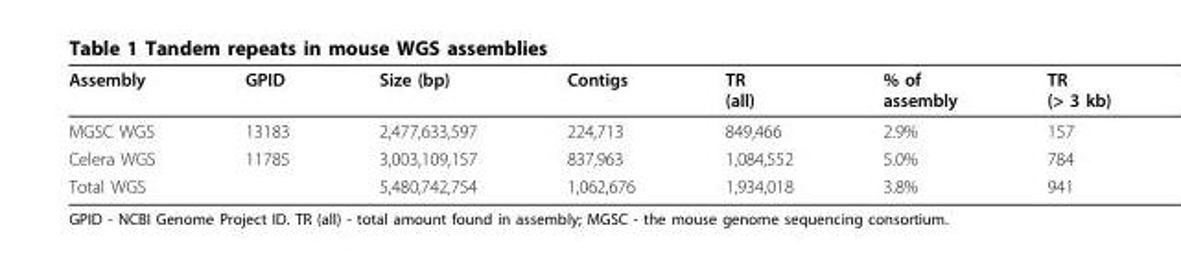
<table><thead><tr><td>Assembly</td><td>GPID</td><td>Size (bp)</td><td>Contigs</td><td>TR (all)</td><td>% of assembly</td><td>TR (&gt; 3 kb)</td></tr></thead><tbody><tr><td>MGSC WGS</td><td>13183</td><td>2,477,633,597</td><td>224,713</td><td>849,466</td><td>2.9%</td><td>157</td></tr><tr><td>Celera WGS</td><td>11785</td><td>3,003,109,157</td><td>837,963</td><td>1,084,552</td><td>5.0%</td><td>784</td></tr><tr><td>Total WGS</td><td></td><td>5,480,742,754</td><td>1,062,676</td><td>1,934,018</td><td>3.8%</td><td>941</td></tr></tbody></table>